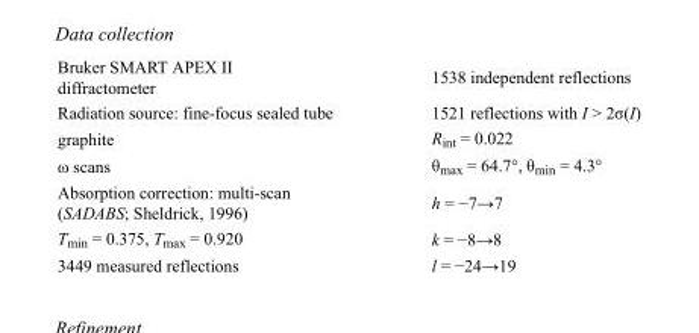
<table><tbody><tr><td>Bruker SMART APEX II diffractometer</td><td>1538 independent reflections</td></tr><tr><td>Radiation source: fine-focus sealed tube</td><td>1521 reflections with I &gt; 2σ(I)</td></tr><tr><td>graphite</td><td>R<sub>int</sub> = 0.022</td></tr><tr><td>ω scans</td><td>θ<sub>max</sub> = 64.7°, θ<sub>min</sub> = 4.3°</td></tr><tr><td>Absorption correction: multi-scan (SADABS; Sheldrick, 1996)</td><td>h = −7→7</td></tr><tr><td>T<sub>min</sub> = 0.375, T<sub>max</sub> = 0.920</td><td>k = −8→8</td></tr><tr><td>3449 measured reflections</td><td>l = −24→19</td></tr></tbody></table>